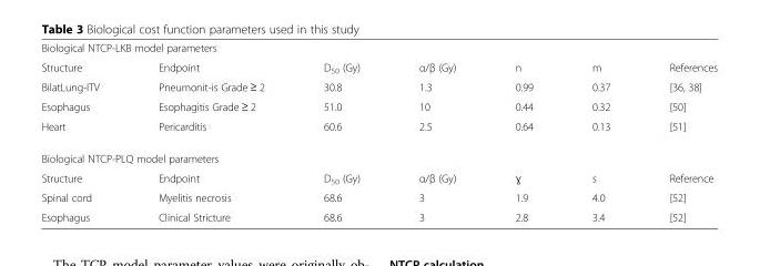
<table><tbody><tr><td colspan="7">Biological NTCP-LKB model parameters</td></tr><tr><td>Structure</td><td>Endpoint</td><td>D<sub>50</sub> (Gy)</td><td>α/β (Gy)</td><td>n</td><td>m</td><td>References</td></tr><tr><td>BilatLung-ITV</td><td>Pneumonit-is Grade ≥ 2</td><td>30.8</td><td>1.3</td><td>0.99</td><td>0.37</td><td>[36, 38]</td></tr><tr><td>Esophagus</td><td>Esophagitis Grade ≥ 2</td><td>51.0</td><td>10</td><td>0.44</td><td>0.32</td><td>[50]</td></tr><tr><td>Heart</td><td>Pericarditis</td><td>60.6</td><td>2.5</td><td>0.64</td><td>0.13</td><td>[51]</td></tr><tr><td colspan="7">Biological NTCP-PLQ model parameters</td></tr><tr><td>Structure</td><td>Endpoint</td><td>D<sub>50</sub> (Gy)</td><td>α/β (Gy)</td><td>ɣ</td><td>s</td><td>Reference</td></tr><tr><td>Spinal cord</td><td>Myelitis necrosis</td><td>68.6</td><td>3</td><td>1.9</td><td>4.0</td><td>[52]</td></tr><tr><td>Esophagus</td><td>Clinical Stricture</td><td>68.6</td><td>3</td><td>2.8</td><td>3.4</td><td>[52]</td></tr></tbody></table>